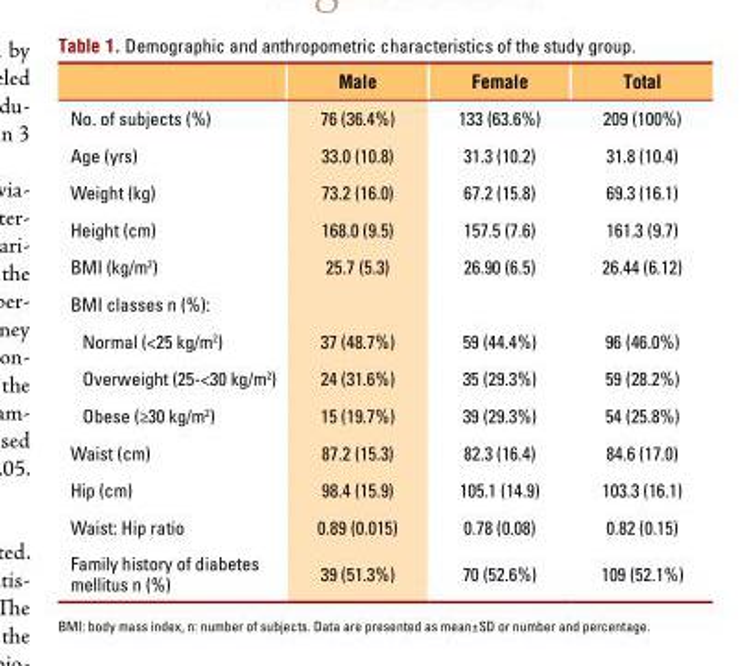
<table><thead><tr><td></td><td>Male</td><td>Female</td><td>Total</td></tr></thead><tbody><tr><td>No. of subjects (%)</td><td>76 (36.4%)</td><td>133 (63.6%)</td><td>209 (100%)</td></tr><tr><td>Age (yrs)</td><td>33.0 (10.8)</td><td>31.3 (10.2)</td><td>31.8 (10.4)</td></tr><tr><td>Weight (kg)</td><td>73.2 (16.0)</td><td>67.2 (15.8)</td><td>69.3 (16.1)</td></tr><tr><td>Height (cm)</td><td>168.0 (9.5)</td><td>157.5 (7.6)</td><td>161.3 (9.7)</td></tr><tr><td>BMI (kg/m<sup>2</sup>)</td><td>25.7 (5.3)</td><td>26.90 (6.5)</td><td>26.44 (6.12)</td></tr><tr><td colspan="4">BMI classes n (%):</td></tr><tr><td>Normal (&lt;25 kg/m<sup>2</sup>)</td><td>37 (48.7%)</td><td>59 (44.4%)</td><td>96 (46.0%)</td></tr><tr><td>Overweight (25-&lt;30 kg/m<sup>2</sup>)</td><td>24 (31.6%)</td><td>35 (29.3%)</td><td>59 (28.2%)</td></tr><tr><td>Obese (≥30 kg/m<sup>2</sup>)</td><td>15 (19.7%)</td><td>39 (29.3%)</td><td>54 (25.8%)</td></tr><tr><td>Waist (cm)</td><td>87.2 (15.3)</td><td>82.3 (16.4)</td><td>84.6 (17.0)</td></tr><tr><td>Hip (cm)</td><td>98.4 (15.9)</td><td>105.1 (14.9)</td><td>103.3 (16.1)</td></tr><tr><td>Waist: Hip ratio</td><td>0.89 (0.015)</td><td>0.78 (0.08)</td><td>0.82 (0.15)</td></tr><tr><td>Family history of diabetes mellitus n (%)</td><td>39 (51.3%)</td><td>70 (52.6%)</td><td>109 (52.1%)</td></tr></tbody></table>